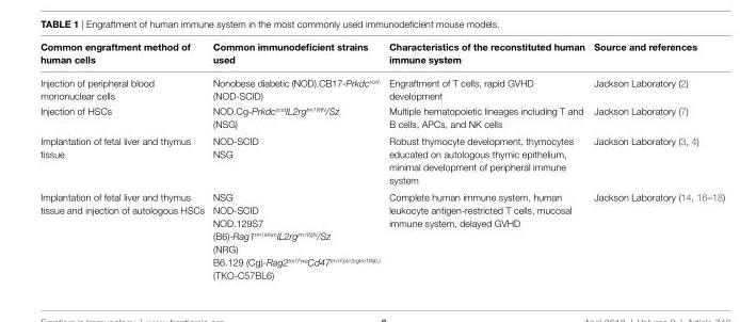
<table><thead><tr><td>Common engraftment method of human cells</td><td>Common immunodeficient strains used</td><td>Characteristics of the reconstituted human immune system</td><td>Source and references</td></tr></thead><tbody><tr><td>Injection of peripheral blood mononuclear cells</td><td>Nonobese diabetic (NOD).CB17-Prkdc<sup>scid</sup> (NOD-SCID)</td><td>Engraftment of T cells, rapid GVHD development</td><td>Jackson Laboratory (2)</td></tr><tr><td>Injection of HSCs</td><td>NOD.Cg-Prkdc<sup>scid</sup>IL2rg<sup>tm1WjN</sup>/Sz (NSG)</td><td>Multiple hematopoietic lineages including T and B cells, APCs, and NK cells</td><td>Jackson Laboratory (7)</td></tr><tr><td>Implantation of fetal liver and thymus tissue</td><td>NOD-SCID NSG</td><td>Robust thymocyte development, thymocytes educated on autologous thymic epithelium, minimal development of peripheral immune system</td><td>Jackson Laboratory (3, 4)</td></tr><tr><td>Implantation of fetal liver and thymus tissue and injection of autologous HSCs</td><td>NSG NOD-SCID NOD.129S7 (B6)-Rag1<sup>tm1Mom</sup>IL2rg<sup>tm1WjN</sup>/Sz (NRG) B6.129 (Cg)-Rag2<sup>tm1Fwa</sup>Cd47<sup>tm1FpI//2rgtm1WjI/J</sup> (TKO-C57BL6)</td><td>Complete human immune system, human leukocyte antigen-restricted T cells, mucosal immune system, delayed GVHD</td><td>Jackson Laboratory (14,</td></tr></tbody></table>